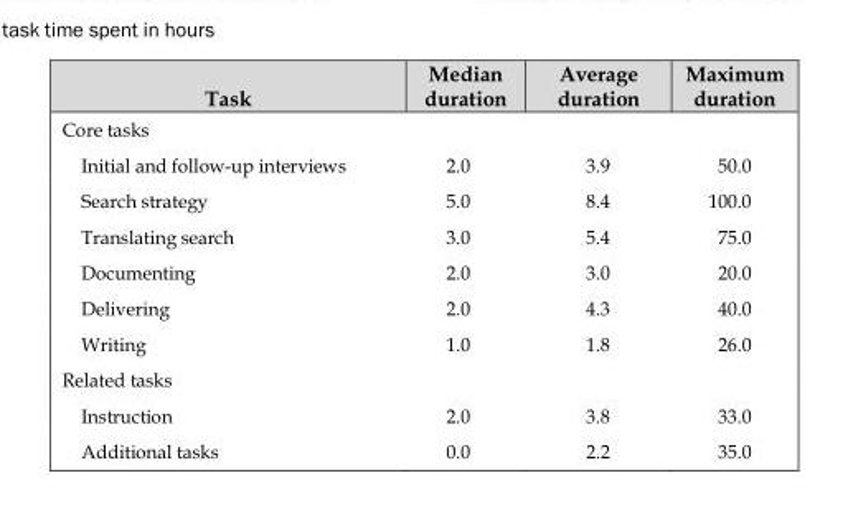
<table><thead><tr><td>Task</td><td>Median duration</td><td>Average duration</td><td>Maximum duration</td></tr></thead><tbody><tr><td colspan="4">Core tasks</td></tr><tr><td>Initial and follow-up interviews</td><td>2.0</td><td>3.9</td><td>50.0</td></tr><tr><td>Search strategy</td><td>5.0</td><td>8.4</td><td>100.0</td></tr><tr><td>Translating search</td><td>3.0</td><td>5.4</td><td>75.0</td></tr><tr><td>Documenting</td><td>2.0</td><td>3.0</td><td>20.0</td></tr><tr><td>Delivering</td><td>2.0</td><td>4.3</td><td>40.0</td></tr><tr><td>Writing</td><td>1.0</td><td>1.8</td><td>26.0</td></tr><tr><td colspan="4">Related tasks</td></tr><tr><td>Instruction</td><td>2.0</td><td>3.8</td><td>33.0</td></tr><tr><td>Additional tasks</td><td>0.0</td><td>2.2</td><td>35.0</td></tr></tbody></table>